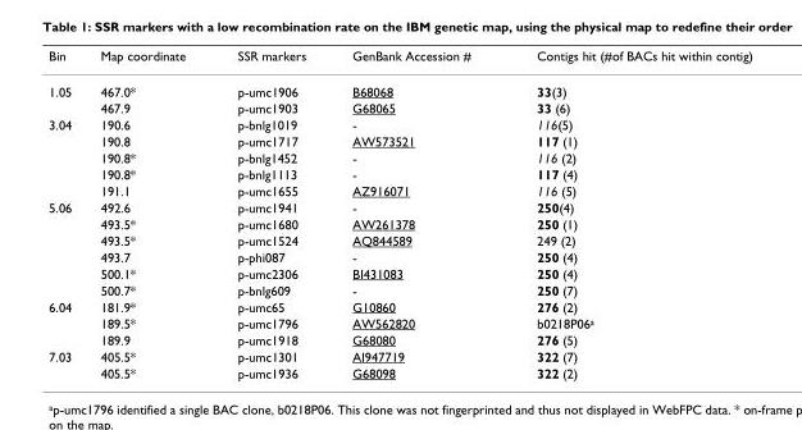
<table><thead><tr><td>Bin</td><td>Map coordinate</td><td>SSR markers</td><td>GenBank Accession #</td><td>Contigs hit (#of BACs hit within contig)</td></tr></thead><tbody><tr><td rowspan="2">1.05</td><td>467.0*</td><td>p-umc1906</td><td>B68068</td><td>33(3)</td></tr><tr><td>467.9</td><td>p-umc1903</td><td>G68065</td><td>33 (6)</td></tr><tr><td rowspan="5">3.04</td><td>190.6</td><td>p-bnlg1019</td><td>-</td><td>116(5)</td></tr><tr><td>190.8</td><td>p-umc1717</td><td>AW573521</td><td>117 (1)</td></tr><tr><td>190.8*</td><td>p-bnlg1452</td><td>-</td><td>116 (2)</td></tr><tr><td>190.8*</td><td>p-bnlg1113</td><td>-</td><td>117 (4)</td></tr><tr><td>191.1</td><td>p-umc1655</td><td>AZ916071</td><td>116 (5)</td></tr><tr><td rowspan="6">5.06</td><td>492.6</td><td>p-umc1941</td><td>-</td><td>250(4)</td></tr><tr><td>493.5*</td><td>p-umc1680</td><td>AW261378</td><td>250 (1)</td></tr><tr><td>493.5*</td><td>p-umc1524</td><td>AQ844589</td><td>249 (2)</td></tr><tr><td>493.7</td><td>p-phi087</td><td>-</td><td>250 (4)</td></tr><tr><td>500.1*</td><td>p-umc2306</td><td>BI431083</td><td>250 (4)</td></tr><tr><td>500.7*</td><td>p-bnlg609</td><td>-</td><td>250 (7)</td></tr><tr><td rowspan="3">6.04</td><td>181.9*</td><td>p-umc65</td><td>G10860</td><td>276 (2)</td></tr><tr><td>189.5*</td><td>p-umc1796</td><td>AW562820</td><td>b0218P06a</td></tr><tr><td>189.9</td><td>p-umc1918</td><td>G68080</td><td>276 (5)</td></tr><tr><td rowspan="2">7.03</td><td>405.5*</td><td>p-umc1301</td><td>AI947719</td><td>322 (7)</td></tr><tr><td>405.5*</td><td>p-umc1936</td><td>G68098</td><td>322 (2)</td></tr></tbody></table>